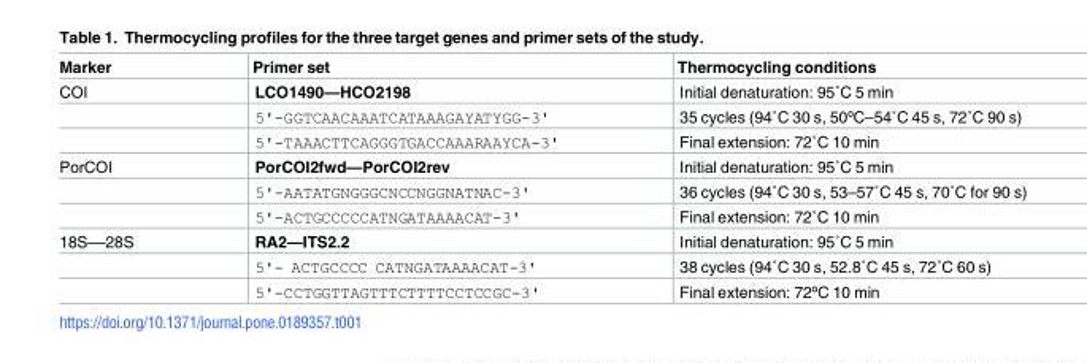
<table><thead><tr><td>Marker</td><td>Primer set</td><td>Thermocycling conditions</td></tr></thead><tbody><tr><td rowspan="3">COI</td><td>LCO1490—HCO2198</td><td>Initial denaturation: 95˚C 5 min</td></tr><tr><td>5&#x27;-GGTCAACAAATCATAAAGAYATYGG-3&#x27;</td><td>35 cycles (94˚C 30 s, 50ºC–54˚C 45 s, 72˚C 90 s)</td></tr><tr><td>5&#x27;-TAAACTTCAGGGTGACCAAARAAYCA-3&#x27;</td><td>Final extension: 72˚C 10 min</td></tr><tr><td rowspan="3">PorCOI</td><td>PorCOI2fwd—PorCOI2rev</td><td>Initial denaturation: 95˚C 5 min</td></tr><tr><td>5&#x27;-AATATGNGGGCNCCNGGNATNAC-3&#x27;</td><td>36 cycles (94˚C 30 s, 53–57˚C 45 s, 70˚C for 90 s)</td></tr><tr><td>5&#x27;-ACTGCCCCCATNGATAAAACAT-3&#x27;</td><td>Final extension: 72˚C 10 min</td></tr><tr><td rowspan="3">18S––28S</td><td>RA2—ITS2.2</td><td>Initial denaturation: 95˚C 5 min</td></tr><tr><td>5&#x27;- ACTGCCCC CATNGATAAAACAT-3&#x27;</td><td>38 cycles (94˚C 30 s, 52.8˚C 45 s, 72˚C 60 s)</td></tr><tr><td>5&#x27;-CCTGGTTAGTTTCTTTTCCTCCGC-3&#x27;</td><td>Final extension: 72ºC 10 min</td></tr></tbody></table>